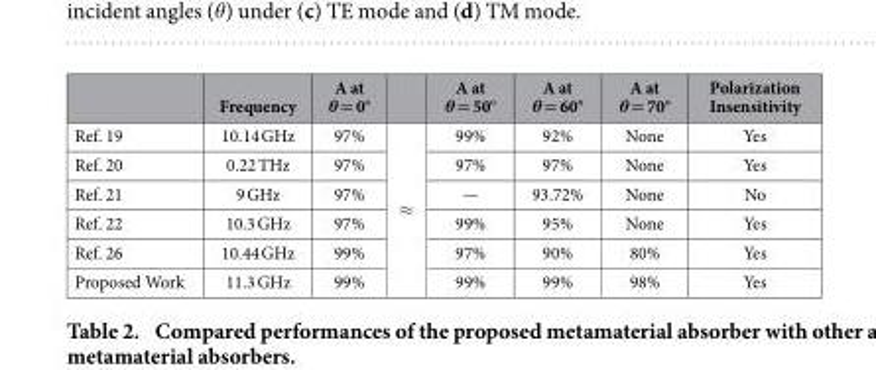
<table><thead><tr><td></td><td>Frequency</td><td>A at θ = 0°</td><td></td><td>A at θ = 50°</td><td>A at θ = 60°</td><td>A at θ = 70°</td><td>Polarization Insensitivity</td></tr></thead><tbody><tr><td>Ref. 19</td><td>10.14 GHz</td><td>97%</td><td rowspan="6">≈</td><td>99%</td><td>92%</td><td>None</td><td>Yes</td></tr><tr><td>Ref. 20</td><td>0.22 THz</td><td>97%</td><td>97%</td><td>97%</td><td>None</td><td>Yes</td></tr><tr><td>Ref. 21</td><td>9 GHz</td><td>97%</td><td>—</td><td>93.72%</td><td>None</td><td>No</td></tr><tr><td>Ref. 22</td><td>10.3 GHz</td><td>97%</td><td>99%</td><td>95%</td><td>None</td><td>Yes</td></tr><tr><td>Ref. 26</td><td>10.44 GHz</td><td>99%</td><td>97%</td><td>90%</td><td>80%</td><td>Yes</td></tr><tr><td>Proposed Work</td><td>11.3 GHz</td><td>99%</td><td>99%</td><td>99%</td><td>98%</td><td>Yes</td></tr></tbody></table>